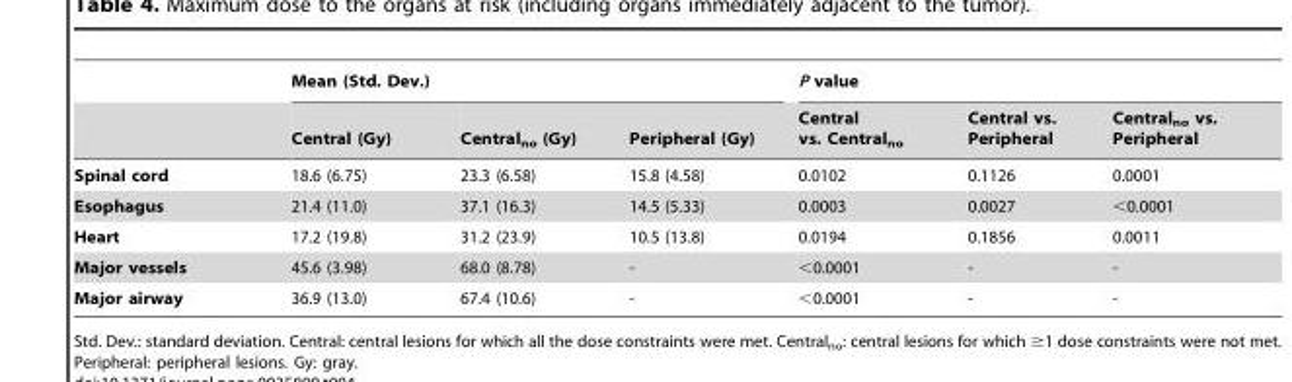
<table><thead><tr><td rowspan="2"></td><td colspan="3">Mean (Std. Dev.)</td><td colspan="3">P value</td></tr><tr><td>Central (Gy)</td><td>Central<sub>no</sub> (Gy)</td><td>Peripheral (Gy)</td><td>Central vs. Central<sub>no</sub></td><td>Central vs. Peripheral</td><td>Central<sub>no</sub> vs. Peripheral</td></tr></thead><tbody><tr><td>Spinal cord</td><td>18.6 (6.75)</td><td>23.3 (6.58)</td><td>15.8 (4.58)</td><td>0.0102</td><td>0.1126</td><td>0.0001</td></tr><tr><td>Esophagus</td><td>21.4 (11.0)</td><td>37.1 (16.3)</td><td>14.5 (5.33)</td><td>0.0003</td><td>0.0027</td><td>&lt;0.0001</td></tr><tr><td>Heart</td><td>17.2 (19.8)</td><td>31.2 (23.9)</td><td>10.5 (13.8)</td><td>0.0194</td><td>0.1856</td><td>0.0011</td></tr><tr><td>Major vessels</td><td>45.6 (3.98)</td><td>68.0 (8.78)</td><td>-</td><td>&lt;0.0001</td><td>-</td><td>-</td></tr><tr><td>Major airway</td><td>36.9 (13.0)</td><td>67.4 (10.6)</td><td>-</td><td>&lt;0.0001</td><td>-</td><td>-</td></tr></tbody></table>